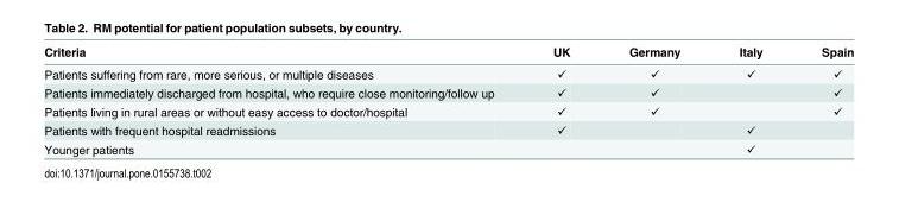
<table><thead><tr><td>Criteria</td><td>UK</td><td>Germany</td><td>Italy</td><td>Spain</td></tr></thead><tbody><tr><td>Patients suffering from rare, more serious, or multiple diseases</td><td>✓</td><td>✓</td><td>✓</td><td>✓</td></tr><tr><td>Patients immediately discharged from hospital, who require close monitoring/follow up</td><td>✓</td><td>✓</td><td></td><td>✓</td></tr><tr><td>Patients living in rural areas or without easy access to doctor/hospital</td><td>✓</td><td>✓</td><td></td><td>✓</td></tr><tr><td>Patients with frequent hospital readmissions</td><td>✓</td><td></td><td>✓</td><td></td></tr><tr><td>Younger patients</td><td></td><td></td><td>✓</td><td></td></tr></tbody></table>